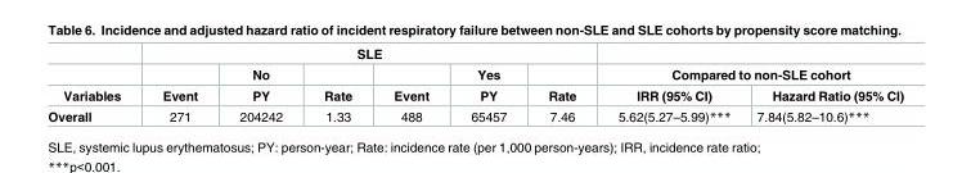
<table><thead><tr><td rowspan="3">Variables</td><td colspan="6">SLE</td><td></td><td></td></tr><tr><td rowspan="2">Event</td><td rowspan="2">No PY</td><td rowspan="2">Rate</td><td rowspan="2">Event</td><td rowspan="2">Yes PY</td><td rowspan="2">Rate</td><td colspan="2">Compared to non-SLE cohort</td></tr><tr><td>IRR (95% CI)</td><td>Hazard Ratio (95% CI)</td></tr></thead><tbody><tr><td>Overall</td><td>271</td><td>204242</td><td>1.33</td><td>488</td><td>65457</td><td>7.46</td><td>5.62(5.27–5.99)***</td><td>7.84(5.82–10.6)***</td></tr></tbody></table>